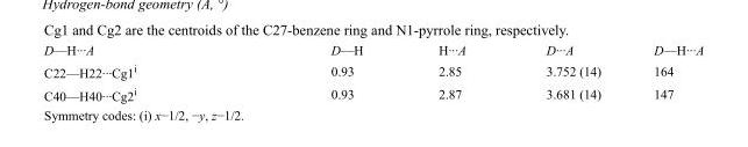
<table><tbody><tr><td>D—H···A</td><td>D—H</td><td>H···A</td><td>D···A</td><td>D—H···A</td></tr><tr><td>C22—H22···Cg1<sup>i</sup></td><td>0.93</td><td>2.85</td><td>3.752 (14)</td><td>164</td></tr><tr><td>C40—H40···Cg2<sup>i</sup></td><td>0.93</td><td>2.87</td><td>3.681 (14)</td><td>147</td></tr></tbody></table>